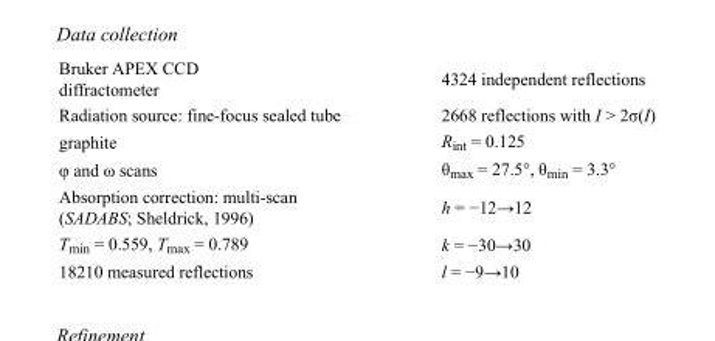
<table><tbody><tr><td>Bruker APEX CCD diffractometer</td><td>4324 independent reflections</td></tr><tr><td>Radiation source: fine-focus sealed tube</td><td>2668 reflections with I &gt; 2σ(I)</td></tr><tr><td>graphite</td><td>R<sub>int</sub> = 0.125</td></tr><tr><td>φ and ω scans</td><td>θ<sub>max</sub> = 27.5°, θ<sub>min</sub> = 3.3°</td></tr><tr><td>Absorption correction: multi-scan (SADABS; Sheldrick, 1996)</td><td>h = −12→12</td></tr><tr><td>T<sub>min</sub> = 0.559, T<sub>max</sub> = 0.789</td><td>k = −30→30</td></tr><tr><td>18210 measured reflections</td><td>l = −9→10</td></tr></tbody></table>